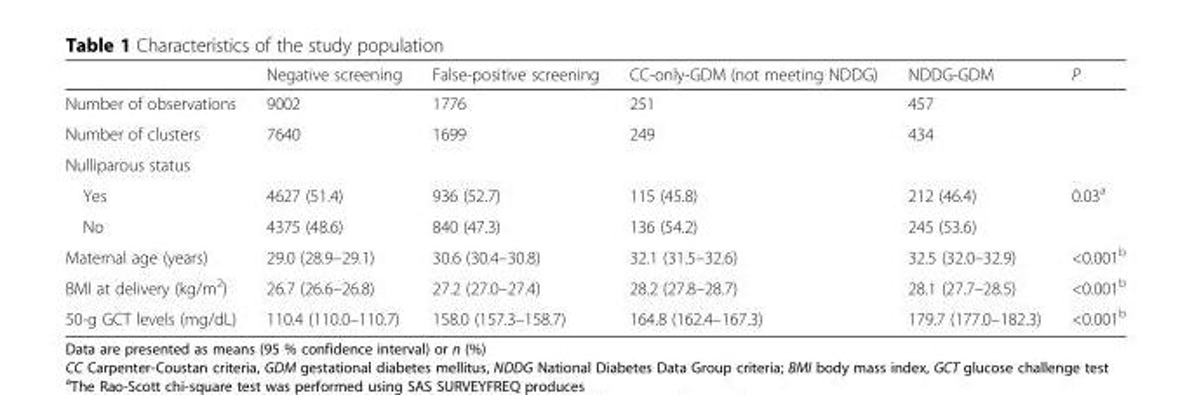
<table><thead><tr><td></td><td>Negative screening</td><td>False-positive screening</td><td>CC-only-GDM (not meeting NDDG)</td><td>NDDG-GDM</td><td>P</td></tr></thead><tbody><tr><td>Number of observations</td><td>9002</td><td>1776</td><td>251</td><td>457</td><td></td></tr><tr><td>Number of clusters</td><td>7640</td><td>1699</td><td>249</td><td>434</td><td></td></tr><tr><td colspan="6">Nulliparous status</td></tr><tr><td>Yes</td><td>4627 (51.4)</td><td>936 (52.7)</td><td>115 (45.8)</td><td>212 (46.4)</td><td>0.03<sup>a</sup></td></tr><tr><td>No</td><td>4375 (48.6)</td><td>840 (47.3)</td><td>136 (54.2)</td><td>245 (53.6)</td><td></td></tr><tr><td>Maternal age (years)</td><td>29.0 (28.9–29.1)</td><td>30.6 (30.4–30.8)</td><td>32.1 (31.5–32.6)</td><td>32.5 (32.0–32.9)</td><td>&lt;0.001<sup>b</sup></td></tr><tr><td>BMI at delivery (kg/m<sup>2</sup>)</td><td>26.7 (26.6–26.8)</td><td>27.2 (27.0–27.4)</td><td>28.2 (27.8–28.7)</td><td>28.1 (27.7–28.5)</td><td>&lt;0.001<sup>b</sup></td></tr><tr><td>50-g GCT levels (mg/dL)</td><td>110.4 (110.0–110.7)</td><td>158.0 (157.3–158.7)</td><td>164.8 (162.4–167.3)</td><td>179.7 (177.0–182.3)</td><td>&lt;0.001<sup>b</sup></td></tr></tbody></table>